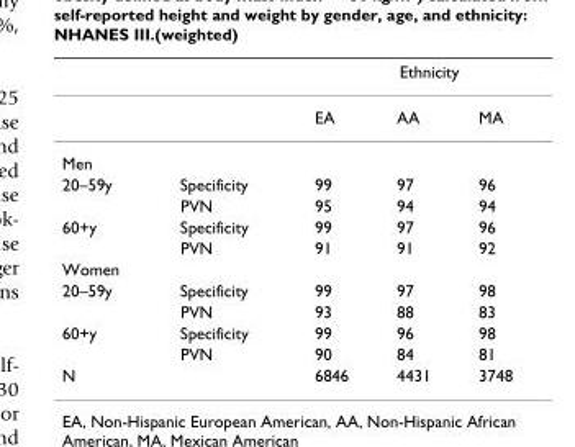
<table><thead><tr><td rowspan="2"></td><td rowspan="2"></td><td colspan="3">Ethnicity</td></tr><tr><td>EA</td><td>AA</td><td>MA</td></tr></thead><tbody><tr><td colspan="5">Men</td></tr><tr><td rowspan="2">20–59y</td><td>Specificity</td><td>99</td><td>97</td><td>96</td></tr><tr><td>PVN</td><td>95</td><td>94</td><td>94</td></tr><tr><td rowspan="2">60+y</td><td>Specificity</td><td>99</td><td>97</td><td>96</td></tr><tr><td>PVN</td><td>91</td><td>91</td><td>92</td></tr><tr><td colspan="5">Women</td></tr><tr><td rowspan="2">20–59y</td><td>Specificity</td><td>99</td><td>97</td><td>98</td></tr><tr><td>PVN</td><td>93</td><td>88</td><td>83</td></tr><tr><td rowspan="2">60+y</td><td>Specificity</td><td>99</td><td>96</td><td>98</td></tr><tr><td>PVN</td><td>90</td><td>84</td><td>81</td></tr><tr><td>N</td><td></td><td>6846</td><td>4431</td><td>3748</td></tr></tbody></table>